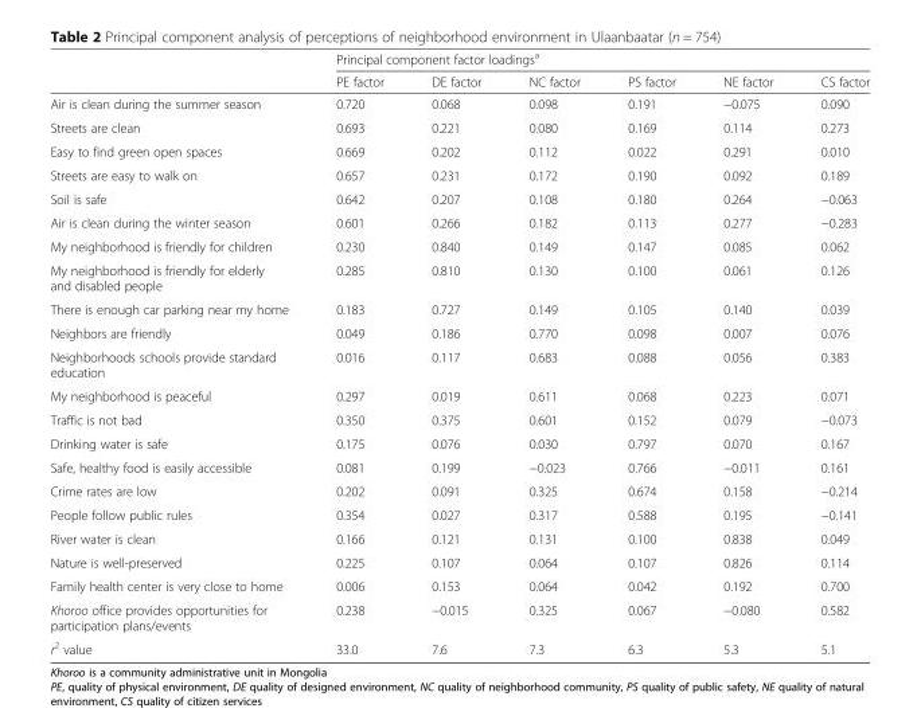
<table><thead><tr><td rowspan="2"></td><td colspan="6">Principal component factor loadings<sup>a</sup></td></tr><tr><td>PE factor</td><td>DE factor</td><td>NC factor</td><td>PS factor</td><td>NE factor</td><td>CS factor</td></tr></thead><tbody><tr><td>Air is clean during the summer season</td><td>0.720</td><td>0.068</td><td>0.098</td><td>0.191</td><td>−0.075</td><td>0.090</td></tr><tr><td>Streets are clean</td><td>0.693</td><td>0.221</td><td>0.080</td><td>0.169</td><td>0.114</td><td>0.273</td></tr><tr><td>Easy to find green open spaces</td><td>0.669</td><td>0.202</td><td>0.112</td><td>0.022</td><td>0.291</td><td>0.010</td></tr><tr><td>Streets are easy to walk on</td><td>0.657</td><td>0.231</td><td>0.172</td><td>0.190</td><td>0.092</td><td>0.189</td></tr><tr><td>Soil is safe</td><td>0.642</td><td>0.207</td><td>0.108</td><td>0.180</td><td>0.264</td><td>−0.063</td></tr><tr><td>Air is clean during the winter season</td><td>0.601</td><td>0.266</td><td>0.182</td><td>0.113</td><td>0.277</td><td>−0.283</td></tr><tr><td>My neighborhood is friendly for children</td><td>0.230</td><td>0.840</td><td>0.149</td><td>0.147</td><td>0.085</td><td>0.062</td></tr><tr><td>My neighborhood is friendly for elderly and disabled people</td><td>0.285</td><td>0.810</td><td>0.130</td><td>0.100</td><td>0.061</td><td>0.126</td></tr><tr><td>There is enough car parking near my home</td><td>0.183</td><td>0.727</td><td>0.149</td><td>0.105</td><td>0.140</td><td>0.039</td></tr><tr><td>Neighbors are friendly</td><td>0.049</td><td>0.186</td><td>0.770</td><td>0.098</td><td>0.007</td><td>0.076</td></tr><tr><td>Neighborhoods schools provide standard education</td><td>0.016</td><td>0.117</td><td>0.683</td><td>0.088</td><td>0.056</td><td>0.383</td></tr><tr><td>My neighborhood is peaceful</td><td>0.297</td><td>0.019</td><td>0.611</td><td>0.068</td><td>0.223</td><td>0.071</td></tr><tr><td>Traffic is not bad</td><td>0.350</td><td>0.375</td><td>0.601</td><td>0.152</td><td>0.079</td><td>−0.073</td></tr><tr><td>Drinking water is safe</td><td>0.175</td><td>0.076</td><td>0.030</td><td>0.797</td><td>0.070</td><td>0.167</td></tr><tr><td>Safe, healthy food is easily accessible</td><td>0.081</td><td>0.199</td><td>−0.023</td><td>0.766</td><td>−0.011</td><td>0.161</td></tr><tr><td>Crime rates are low</td><td>0.202</td><td>0.091</td><td>0.325</td><td>0.674</td><td>0.158</td><td>−0.214</td></tr><tr><td>People follow public rules</td><td>0.354</td><td>0.027</td><td>0.317</td><td>0.588</td><td>0.195</td><td>−0.141</td></tr><tr><td>River water is clean</td><td>0.166</td><td>0.121</td><td>0.131</td><td>0.100</td><td>0.838</td><td>0.049</td></tr><tr><td>Nature is well-preserved</td><td>0.225</td><td>0.107</td><td>0.064</td><td>0.107</td><td>0.826</td><td>0.114</td></tr><tr><td>Family health center is very close to home</td><td>0.006</td><td>0.153</td><td>0.064</td><td>0.042</td><td>0.192</td><td>0.700</td></tr><tr><td>Khoroo office provides opportunities for participation plans/events</td><td>0.238</td><td>−0.015</td><td>0.325</td><td>0.067</td><td>−0.080</td><td>0.582</td></tr><tr><td>r<sup>2</sup> value</td><td>33.0</td><td>7.6</td><td>7.3</td><td>6.3</td><td>5.3</td><td>5.1</td></tr></tbody></table>